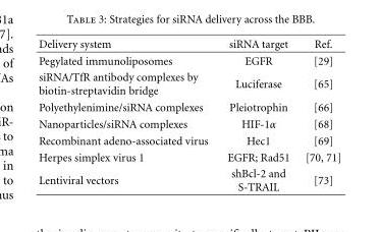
<table><thead><tr><td>Delivery system</td><td>siRNA target</td><td>Ref.</td></tr></thead><tbody><tr><td>Pegylated immunoliposomes</td><td>EGFR</td><td>[29]</td></tr><tr><td>siRNA/TfR antibody complexes by biotin-streptavidin bridge</td><td>Luciferase</td><td>[65]</td></tr><tr><td>Polyethylenimine/siRNA complexes</td><td>Pleiotrophin</td><td>[66]</td></tr><tr><td>Nanoparticles/siRNA complexes</td><td>HIF-1α</td><td>[68]</td></tr><tr><td>Recombinant adeno-associated virus</td><td>Hec1</td><td>[69]</td></tr><tr><td>Herpes simplex virus 1</td><td>EGFR; Rad51</td><td>[70, 71]</td></tr><tr><td>Lentiviral vectors</td><td>shBcl-2 and S-TRAIL</td><td>[73]</td></tr></tbody></table>